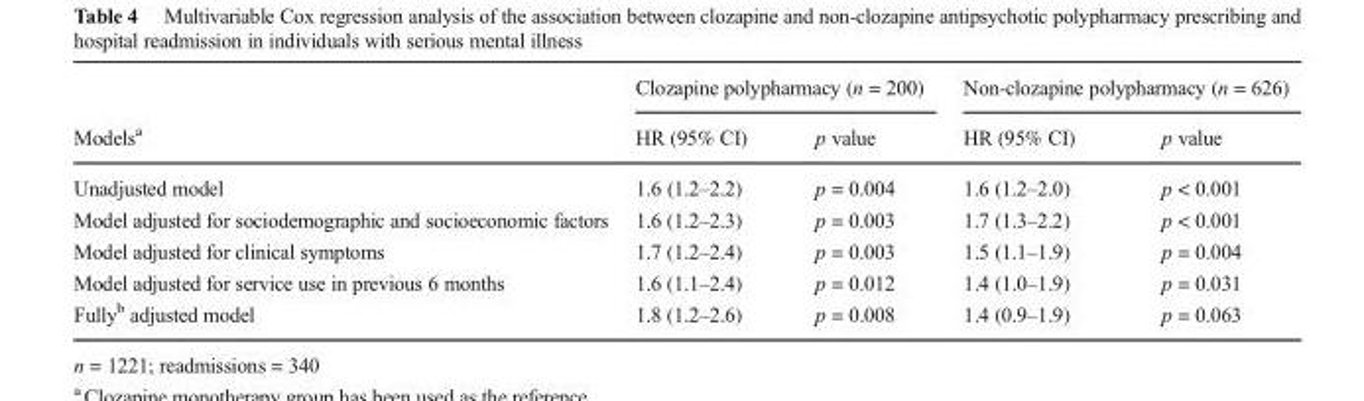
<table><thead><tr><td rowspan="2">Models<sup>a</sup></td><td colspan="2">Clozapine polypharmacy (n = 200)</td><td colspan="2">Non-clozapine polypharmacy (n = 626)</td></tr><tr><td>HR (95% CI)</td><td>p value</td><td>HR (95% CI)</td><td>p value</td></tr></thead><tbody><tr><td>Unadjusted model</td><td>1.6 (1.2–2.2)</td><td>p = 0.004</td><td>1.6 (1.2–2.0)</td><td>p &lt; 0.001</td></tr><tr><td>Model adjusted for sociodemographic and socioeconomic factors</td><td>1.6 (1.2–2.3)</td><td>p = 0.003</td><td>1.7 (1.3–2.2)</td><td>p &lt; 0.001</td></tr><tr><td>Model adjusted for clinical symptoms</td><td>1.7 (1.2–2.4)</td><td>p = 0.003</td><td>1.5 (1.1–1.9)</td><td>p = 0.004</td></tr><tr><td>Model adjusted for service use in previous 6 months</td><td>1.6 (1.1–2.4)</td><td>p = 0.012</td><td>1.4 (1.0–1.9)</td><td>p = 0.031</td></tr><tr><td>Fully<sup>b</sup> adjusted model</td><td>1.8 (1.2–2.6)</td><td>p = 0.008</td><td>1.4 (0.9–1.9)</td><td>p = 0.063</td></tr></tbody></table>